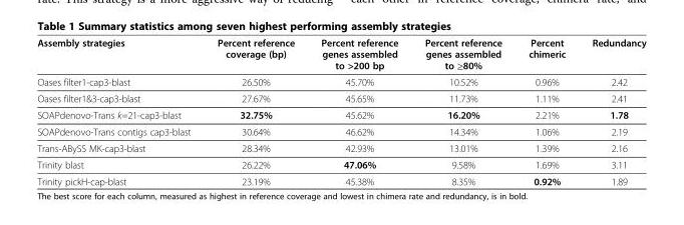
<table><thead><tr><td>Assembly strategies</td><td>Percent reference coverage (bp)</td><td>Percent reference genes assembled to &gt;200 bp</td><td>Percent reference genes assembled to ≥80%</td><td>Percent chimeric</td><td>Redundancy</td></tr></thead><tbody><tr><td>Oases filter1-cap3-blast</td><td>26.50%</td><td>45.70%</td><td>10.52%</td><td>0.96%</td><td>2.42</td></tr><tr><td>Oases filter1&amp;3-cap3-blast</td><td>27.67%</td><td>45.65%</td><td>11.73%</td><td>1.11%</td><td>2.41</td></tr><tr><td>SOAPdenovo-Trans k=21-cap3-blast</td><td>32.75%</td><td>45.62%</td><td>16.20%</td><td>2.21%</td><td>1.78</td></tr><tr><td>SOAPdenovo-Trans contigs cap3-blast</td><td>30.64%</td><td>46.62%</td><td>14.34%</td><td>1.06%</td><td>2.19</td></tr><tr><td>Trans-ABySS MK-cap3-blast</td><td>28.34%</td><td>42.93%</td><td>13.01%</td><td>1.39%</td><td>2.16</td></tr><tr><td>Trinity blast</td><td>26.22%</td><td>47.06%</td><td>9.58%</td><td>1.69%</td><td>3.11</td></tr><tr><td>Trinity pickH-cap-blast</td><td>23.19%</td><td>45.38%</td><td>8.35%</td><td>0.92%</td><td>1.89</td></tr></tbody></table>